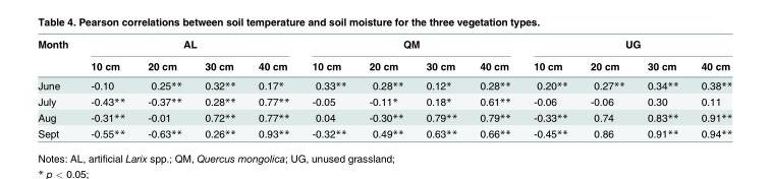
<table><thead><tr><td rowspan="2">Month</td><td colspan="4">AL</td><td colspan="4">QM</td><td colspan="4">UG</td></tr><tr><td>10 cm</td><td>20 cm</td><td>30 cm</td><td>40 cm</td><td>10 cm</td><td>20 cm</td><td>30 cm</td><td>40 cm</td><td>10 cm</td><td>20 cm</td><td>30 cm</td><td>40 cm</td></tr></thead><tbody><tr><td>June</td><td>-0.10</td><td>0.25**</td><td>0.32**</td><td>0.17*</td><td>0.33**</td><td>0.28**</td><td>0.12*</td><td>0.28**</td><td>0.20**</td><td>0.27**</td><td>0.34**</td><td>0.38**</td></tr><tr><td>July</td><td>-0.43**</td><td>-0.37**</td><td>0.28**</td><td>0.77**</td><td>-0.05</td><td>-0.11*</td><td>0.18*</td><td>0.61**</td><td>-0.06</td><td>-0.06</td><td>0.30</td><td>0.11</td></tr><tr><td>Aug</td><td>-0.31**</td><td>-0.01</td><td>0.72**</td><td>0.77**</td><td>0.04</td><td>-0.30**</td><td>0.79**</td><td>0.79**</td><td>-0.33**</td><td>0.74</td><td>0.83**</td><td>0.91**</td></tr><tr><td>Sept</td><td>-0.55**</td><td>-0.63**</td><td>0.26**</td><td>0.93**</td><td>-0.32**</td><td>0.49**</td><td>0.63**</td><td>0.66**</td><td>-0.45**</td><td>0.86</td><td>0.91**</td><td>0.94**</td></tr></tbody></table>